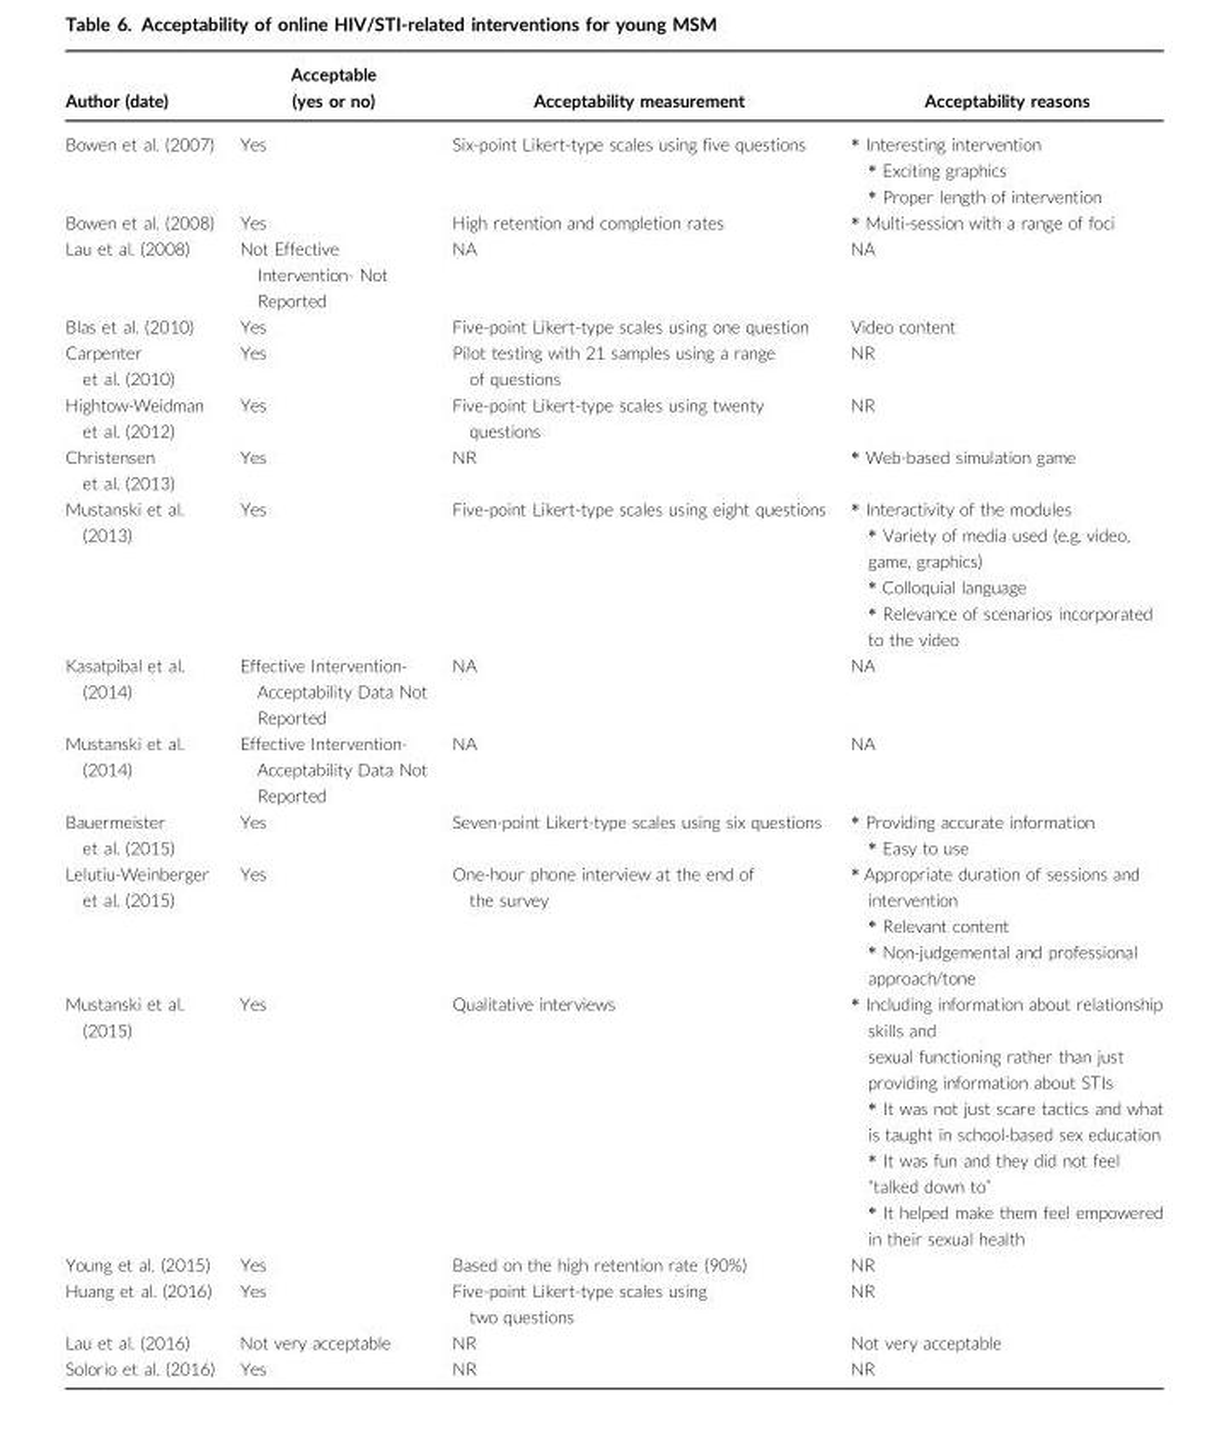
<table><thead><tr><td>Author (date)</td><td>Acceptable (yes or no)</td><td>Acceptability measurement</td><td>Acceptability reasons</td></tr></thead><tbody><tr><td>Bowen et al. (2007)</td><td>Yes</td><td>Six-point Likert-type scales using five questions</td><td>* Interesting intervention * Exciting graphics * Proper length of intervention</td></tr><tr><td>Bowen et al. (2008)</td><td>Yes</td><td>High retention and completion rates</td><td>* Multi-session with a range of foci</td></tr><tr><td>Lau et al. (2008)</td><td>Not Effective Intervention- Not Reported</td><td>NA</td><td>NA</td></tr><tr><td>Blas et al. (2010)</td><td>Yes</td><td>Five-point Likert-type scales using one question</td><td>Video content</td></tr><tr><td>Carpenter et al. (2010)</td><td>Yes</td><td>Pilot testing with 21 samples using a range of questions</td><td>NR</td></tr><tr><td>Hightow-Weidman et al. (2012)</td><td>Yes</td><td>Five-point Likert-type scales using twenty questions</td><td>NR</td></tr><tr><td>Christensen et al. (2013)</td><td>Yes</td><td>NR</td><td>* Web-based simulation game</td></tr><tr><td>Mustanski et al. (2013)</td><td>Yes</td><td>Five-point Likert-type scales using eight questions</td><td>* Interactivity of the modules * Variety of media used (e.g. video, game, graphics) * Colloquial language * Relevance of scenarios incorporated to the video</td></tr><tr><td>Kasatpibal et al. (2014)</td><td>Effective Intervention- Acceptability Data Not Reported</td><td>NA</td><td>NA</td></tr><tr><td>Mustanski et al. (2014)</td><td>Effective Intervention- Acceptability Data Not Reported</td><td>NA</td><td>NA</td></tr><tr><td>Bauermeister et al. (2015)</td><td>Yes</td><td>Seven-point Likert-type scales using six questions</td><td>* Providing accurate information * Easy to use</td></tr><tr><td>Lelutiu-Weinberger et al. (2015)</td><td>Yes</td><td>One-hour phone interview at the end of the survey</td><td>* Appropriate duration of sessions and intervention * Relevant content * Non-judgemental and professional approach/tone</td></tr><tr><td>Mustanski et al. (2015)</td><td>Yes</td><td>Qualitative interviews</td><td>* Including information about relationship skills and sexual functioning rather than just providing information about STIs * It was not just scare tactics and what is taught in school-based sex education * It was fun and they did not feel “talked down to” * It helped make them feel empowered in their sexual health</td></tr><tr><td>Young et al. (2015)</td><td>Yes</td><td>Based on the high retention rate (90%)</td><td>NR</td></tr><tr><td>Huang et al. (2016)</td><td>Yes</td><td>Five-point Likert-type scales using two questions</td><td>NR</td></tr><tr><td>Lau et al. (2016)</td><td>Not very acceptable</td><td>NR</td><td>Not very acceptable</td></tr><tr><td>Solorio et al. (2016)</td><td>Yes</td><td>NR</td><td>NR</td></tr></tbody></table>